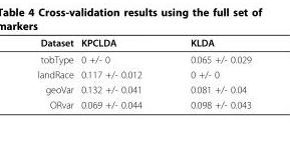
<table><thead><tr><td>Dataset</td><td>KPCLDA</td><td>KLDA</td></tr></thead><tbody><tr><td>tobType</td><td>0 +/- 0</td><td>0.065 +/- 0.029</td></tr><tr><td>landRace</td><td>0.117 +/- 0.012</td><td>0 +/- 0</td></tr><tr><td>geoVar</td><td>0.132 +/- 0.041</td><td>0.081 +/- 0.04</td></tr><tr><td>ORvar</td><td>0.069 +/- 0.044</td><td>0.098 +/- 0.043</td></tr></tbody></table>